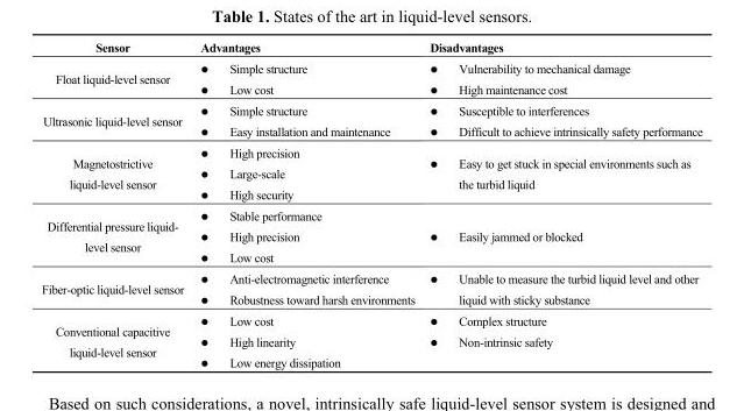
<table><thead><tr><td>Sensor</td><td>Advantages</td><td>Disadvantages</td></tr></thead><tbody><tr><td rowspan="2">Float liquid-level sensor</td><td> Simple structure</td><td> Vulnerability to mechanical damage</td></tr><tr><td> Low cost</td><td> High maintenance cost</td></tr><tr><td rowspan="2">Ultrasonic liquid-level sensor</td><td> Simple structure</td><td> Susceptible to interferences</td></tr><tr><td> Easy installation and maintenance</td><td> Difficult to achieve intrinsically safety performance</td></tr><tr><td rowspan="3">Magnetostrictive liquid-level sensor</td><td> High precision</td><td rowspan="3"> Easy to get stuck in special environments such as the turbid liquid</td></tr><tr><td> Large-scale</td></tr><tr><td> High security</td></tr><tr><td rowspan="3">Differential pressure liquid- level sensor</td><td> Stable performance</td><td rowspan="3"> Easily jammed or blocked</td></tr><tr><td> High precision</td></tr><tr><td> Low cost</td></tr><tr><td rowspan="2">Fiber-optic liquid-level sensor</td><td> Anti-electromagnetic interference</td><td rowspan="2"> Unable to measure the turbid liquid level and other liquid with sticky substance</td></tr><tr><td> Robustness toward harsh environments</td></tr><tr><td rowspan="3">Conventional capacitive liquid-level sensor</td><td> Low cost</td><td> Complex structure</td></tr><tr><td> High linearity</td><td> Non-intrinsic safety</td></tr><tr><td> Low energy dissipation</td><td></td></tr></tbody></table>